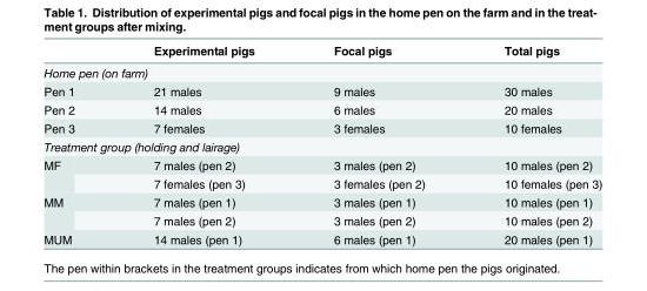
<table><thead><tr><td></td><td>Experimental pigs</td><td>Focal pigs</td><td>Total pigs</td></tr></thead><tbody><tr><td colspan="4">Home pen (on farm)</td></tr><tr><td>Pen 1</td><td>21 males</td><td>9 males</td><td>30 males</td></tr><tr><td>Pen 2</td><td>14 males</td><td>6 males</td><td>20 males</td></tr><tr><td>Pen 3</td><td>7 females</td><td>3 females</td><td>10 females</td></tr><tr><td colspan="4">Treatment group (holding and lairage)</td></tr><tr><td rowspan="2">MF</td><td>7 males (pen 2)</td><td>3 males (pen 2)</td><td>10 males (pen 2)</td></tr><tr><td>7 females (pen 3)</td><td>3 females (pen 2)</td><td>10 females (pen 3)</td></tr><tr><td rowspan="2">MM</td><td>7 males (pen 1)</td><td>3 males (pen 1)</td><td>10 males (pen 1)</td></tr><tr><td>7 males (pen 2)</td><td>3 males (pen 2)</td><td>10 males (pen 2)</td></tr><tr><td>MUM</td><td>14 males (pen 1)</td><td>6 males (pen 1)</td><td>20 males (pen 1)</td></tr></tbody></table>